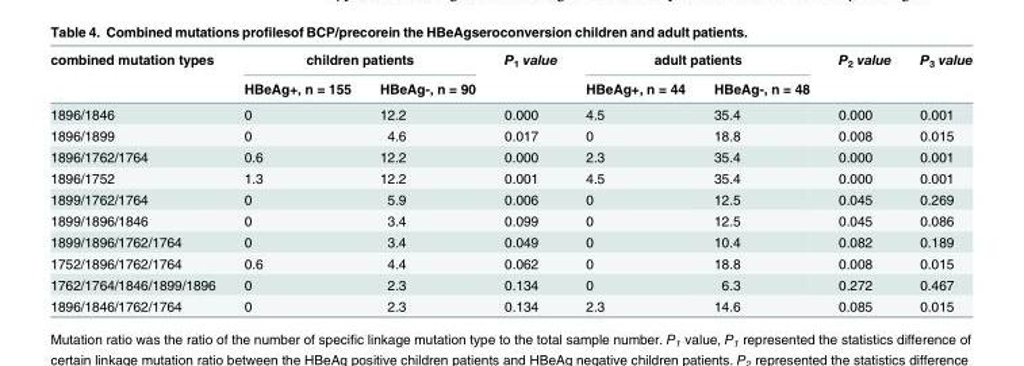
<table><thead><tr><td rowspan="2">combined mutation types</td><td colspan="2">children patients</td><td rowspan="2">P<sub>1</sub> value</td><td colspan="2">adult patients</td><td rowspan="2">P<sub>2</sub> value</td><td rowspan="2">P<sub>3</sub> value</td></tr><tr><td>HBeAg+, n = 155</td><td>HBeAg-, n = 90</td><td>HBeAg+, n = 44</td><td>HBeAg-, n = 48</td></tr></thead><tbody><tr><td>1896/1846</td><td>0</td><td>12.2</td><td>0.000</td><td>4.5</td><td>35.4</td><td>0.000</td><td>0.001</td></tr><tr><td>1896/1899</td><td>0</td><td>4.6</td><td>0.017</td><td>0</td><td>18.8</td><td>0.008</td><td>0.015</td></tr><tr><td>1896/1762/1764</td><td>0.6</td><td>12.2</td><td>0.000</td><td>2.3</td><td>35.4</td><td>0.000</td><td>0.001</td></tr><tr><td>1896/1752</td><td>1.3</td><td>12.2</td><td>0.001</td><td>4.5</td><td>35.4</td><td>0.000</td><td>0.001</td></tr><tr><td>1899/1762/1764</td><td>0</td><td>5.9</td><td>0.006</td><td>0</td><td>12.5</td><td>0.045</td><td>0.269</td></tr><tr><td>1899/1896/1846</td><td>0</td><td>3.4</td><td>0.099</td><td>0</td><td>12.5</td><td>0.045</td><td>0.086</td></tr><tr><td>1899/1896/1762/1764</td><td>0</td><td>3.4</td><td>0.049</td><td>0</td><td>10.4</td><td>0.082</td><td>0.189</td></tr><tr><td>1752/1896/1762/1764</td><td>0.6</td><td>4.4</td><td>0.062</td><td>0</td><td>18.8</td><td>0.008</td><td>0.015</td></tr><tr><td>1762/1764/1846/1899/1896</td><td>0</td><td>2.3</td><td>0.134</td><td>0</td><td>6.3</td><td>0.272</td><td>0.467</td></tr><tr><td>1896/1846/1762/1764</td><td>0</td><td>2.3</td><td>0.134</td><td>2.3</td><td>14.6</td><td>0.085</td><td>0.015</td></tr></tbody></table>